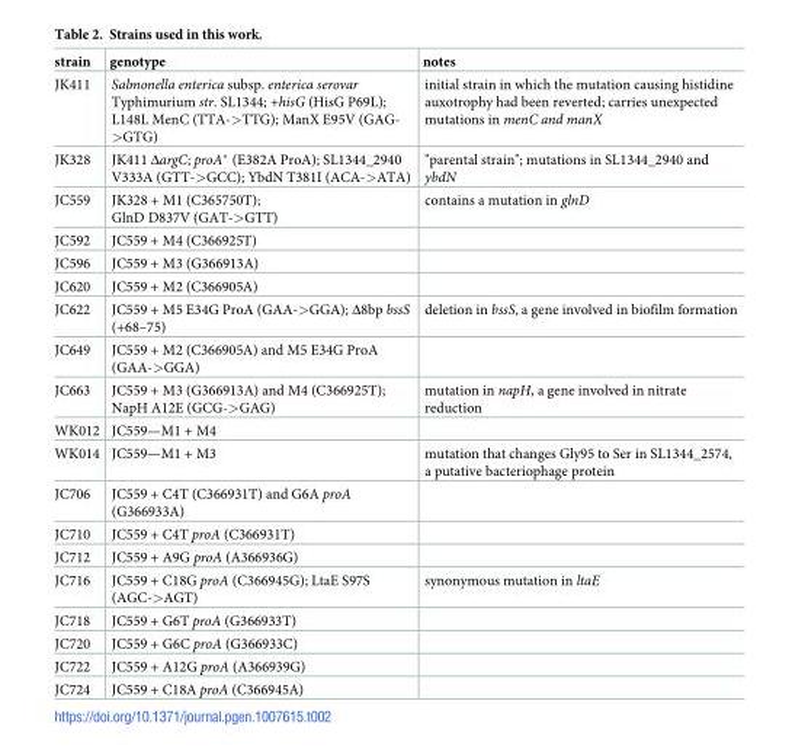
<table><thead><tr><td>strain</td><td>genotype</td><td>notes</td></tr></thead><tbody><tr><td>JK411</td><td>Salmonella enterica subsp. enterica serovar Typhimurium str. SL1344; +hisG (HisG P69L); L148L MenC (TTA-&gt;TTG); ManX E95V (GAG- &gt;GTG)</td><td>initial strain in which the mutation causing histidine auxotrophy had been reverted; carries unexpected mutations in menC and manX</td></tr><tr><td>JK328</td><td>JK411 ΔargC; proA* (E382A ProA); SL1344_2940 V333A (GTT-&gt;GCC); YbdN T381I (ACA-&gt;ATA)</td><td>&quot;parental strain&quot;; mutations in SL1344_2940 and ybdN</td></tr><tr><td>JC559</td><td>JK328 + M1 (C365750T); GlnD D837V (GAT-&gt;GTT)</td><td>contains a mutation in glnD</td></tr><tr><td>JC592</td><td>JC559 + M4 (C366925T)</td><td></td></tr><tr><td>JC596</td><td>JC559 + M3 (G366913A)</td><td></td></tr><tr><td>JC620</td><td>JC559 + M2 (C366905A)</td><td></td></tr><tr><td>JC622</td><td>JC559 + M5 E34G ProA (GAA-&gt;GGA); Δ8bp bssS (+68–75)</td><td>deletion in bssS, a gene involved in biofilm formation</td></tr><tr><td>JC649</td><td>JC559 + M2 (C366905A) and M5 E34G ProA (GAA-&gt;GGA)</td><td></td></tr><tr><td>JC663</td><td>JC559 + M3 (G366913A) and M4 (C366925T); NapH A12E (GCG-&gt;GAG)</td><td>mutation in napH, a gene involved in nitrate reduction</td></tr><tr><td>WK012</td><td>JC559—M1 + M4</td><td></td></tr><tr><td>WK014</td><td>JC559—M1 + M3</td><td>mutation that changes Gly95 to Ser in SL1344_2574, a putative bacteriophage protein</td></tr><tr><td>JC706</td><td>JC559 + C4T (C366931T) and G6A proA (G366933A)</td><td></td></tr><tr><td>JC710</td><td>JC559 + C4T proA (C366931T)</td><td></td></tr><tr><td>JC712</td><td>JC559 + A9G proA (A366936G)</td><td></td></tr><tr><td>JC716</td><td>JC559 + C18G proA (C366945G); LtaE S97S (AGC-&gt;AGT)</td><td>synonymous mutation in ltaE</td></tr><tr><td>JC718</td><td>JC559 + G6T proA (G366933T)</td><td></td></tr><tr><td>JC720</td><td>JC559 + G6C proA (G366933C)</td><td></td></tr><tr><td>JC722</td><td>JC559 + A12G proA (A366939G)</td><td></td></tr><tr><td>JC724</td><td>JC559 + C18A proA (C366945A)</td><td></td></tr></tbody></table>